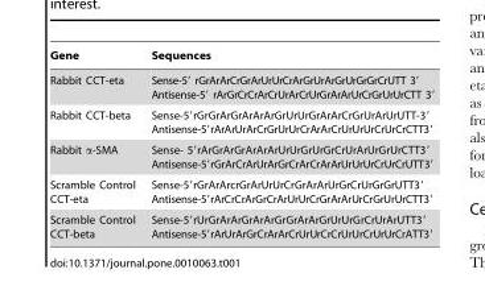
<table><thead><tr><td>Gene</td><td>Sequences</td></tr></thead><tbody><tr><td>Rabbit CCT-eta</td><td>Sense-5′ rGrArArCrGrArUrUrCrArGrUrArGrUrGrGrCrUTT 3′ Antisense-5′ rArGrCrCrArCrUrArCrUrGrArArUrCrGrUrUrCTT 3′</td></tr><tr><td>Rabbit CCT-beta</td><td>Sense-5′rGrGrArGrArArArGrUrUrGrArArCrGrUrArUrUTT-3′ Antisense-5′rArArUrArCrGrUrUrCrArArCrUrUrUrCrUrCrCTT3′</td></tr><tr><td>Rabbit α-SMA</td><td>Sense- 5′rArGrArGrArArArUrUrGrUrGrCrUrArUrGrUrCTT3′ Antisense-5′rGrArCrArUrArGrCrArCrArArUrUrUrCrUrCrUTT3′</td></tr><tr><td>Scramble Control CCT-eta</td><td>Sense-5′rGrArArcrGrArUrUrCrGrArArUrGrCrUrGrGrUTT3′ Antisense-5′rArCrCrArGrCrArUrUrCrGrArArUrCrGrUrUrCTT3′</td></tr><tr><td>Scramble Control CCT-beta</td><td>Sense-5′rUrGrArArGrArArGrGrArArGrUrUrGrCrUrArUTT3′ Antisense-5′rArUrArGrCrArArCrUrUrCrCrUrUrCrUrUrCrATT3′</td></tr></tbody></table>